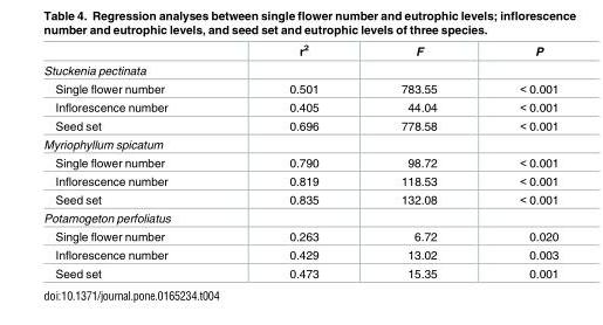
<table><thead><tr><td></td><td>r<sup>2</sup></td><td>F</td><td>P</td></tr></thead><tbody><tr><td colspan="4">Stuckenia pectinata</td></tr><tr><td>Single flower number</td><td>0.501</td><td>783.55</td><td>&lt; 0.001</td></tr><tr><td>Inflorescence number</td><td>0.405</td><td>44.04</td><td>&lt; 0.001</td></tr><tr><td>Seed set</td><td>0.696</td><td>778.58</td><td>&lt; 0.001</td></tr><tr><td colspan="4">Myriophyllum spicatum</td></tr><tr><td>Single flower number</td><td>0.790</td><td>98.72</td><td>&lt; 0.001</td></tr><tr><td>Inflorescence number</td><td>0.819</td><td>118.53</td><td>&lt; 0.001</td></tr><tr><td>Seed set</td><td>0.835</td><td>132.08</td><td>&lt; 0.001</td></tr><tr><td colspan="4">Potamogeton perfoliatus</td></tr><tr><td>Single flower number</td><td>0.263</td><td>6.72</td><td>0.020</td></tr><tr><td>Inflorescence number</td><td>0.429</td><td>13.02</td><td>0.003</td></tr><tr><td>Seed set</td><td>0.473</td><td>15.35</td><td>0.001</td></tr></tbody></table>